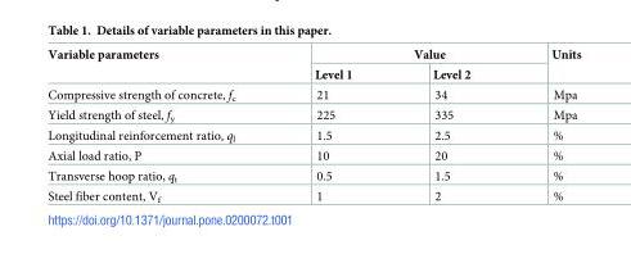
<table><thead><tr><td rowspan="2">Variable parameters</td><td colspan="2">Value</td><td rowspan="2">Units</td></tr><tr><td>Level 1</td><td>Level 2</td></tr></thead><tbody><tr><td>Compressive strength of concrete, f<sub>c</sub></td><td>21</td><td>34</td><td>Mpa</td></tr><tr><td>Yield strength of steel, f<sub>y</sub></td><td>225</td><td>335</td><td>Mpa</td></tr><tr><td>Longitudinal reinforcement ratio, q<sub>l</sub></td><td>1.5</td><td>2.5</td><td>%</td></tr><tr><td>Axial load ratio, P</td><td>10</td><td>20</td><td>%</td></tr><tr><td>Transverse hoop ratio, q<sub>t</sub></td><td>0.5</td><td>1.5</td><td>%</td></tr><tr><td>Steel fiber content, V<sub>f</sub></td><td>1</td><td>2</td><td>%</td></tr></tbody></table>